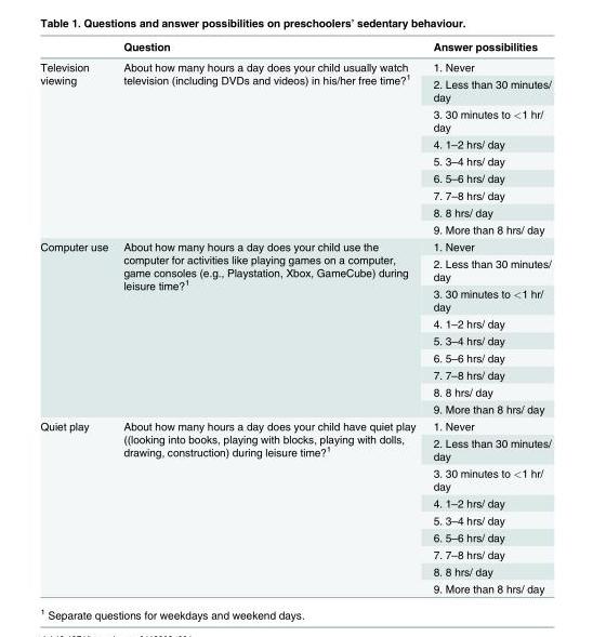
<table><thead><tr><td></td><td>Question</td><td>Answer possibilities</td></tr></thead><tbody><tr><td rowspan="9">Television viewing</td><td rowspan="9">About how many hours a day does your child usually watch television (including DVDs and videos) in his/her free time?<sup>1</sup></td><td>1. Never</td></tr><tr><td>2. Less than 30 minutes/ day</td></tr><tr><td>3. 30 minutes to &lt;1 hr/ day</td></tr><tr><td>4. 1–2 hrs/ day</td></tr><tr><td>5. 3–4 hrs/ day</td></tr><tr><td>6. 5–6 hrs/ day</td></tr><tr><td>7. 7–8 hrs/ day</td></tr><tr><td>8. 8 hrs/ day</td></tr><tr><td>9. More than 8 hrs/ day</td></tr><tr><td rowspan="9">Computer use</td><td rowspan="9">About how many hours a day does your child use the computer for activities like playing games on a computer, game consoles (e.g., Playstation, Xbox, GameCube) during leisure time?<sup>1</sup></td><td>1. Never</td></tr><tr><td>2. Less than 30 minutes/ day</td></tr><tr><td>3. 30 minutes to &lt;1 hr/ day</td></tr><tr><td>4. 1–2 hrs/ day</td></tr><tr><td>5. 3–4 hrs/ day</td></tr><tr><td>6. 5–6 hrs/ day</td></tr><tr><td>7. 7–8 hrs/ day</td></tr><tr><td>8. 8 hrs/ day</td></tr><tr><td>9. More than 8 hrs/ day</td></tr><tr><td rowspan="9">Quiet play</td><td rowspan="9">About how many hours a day does your child have quiet play ((looking into books, playing with blocks, playing with dolls, drawing, construction) during leisure time?<sup>1</sup></td><td>1. Never</td></tr><tr><td>2. Less than 30 minutes/ day</td></tr><tr><td>3. 30 minutes to &lt;1 hr/ day</td></tr><tr><td>4. 1–2 hrs/ day</td></tr><tr><td>5. 3–4 hrs/ day</td></tr><tr><td>6. 5–6 hrs/ day</td></tr><tr><td>7. 7–8 hrs/ day</td></tr><tr><td>8. 8 hrs/ day</td></tr><tr><td>9. More than 8 hrs/ day</td></tr></tbody></table>